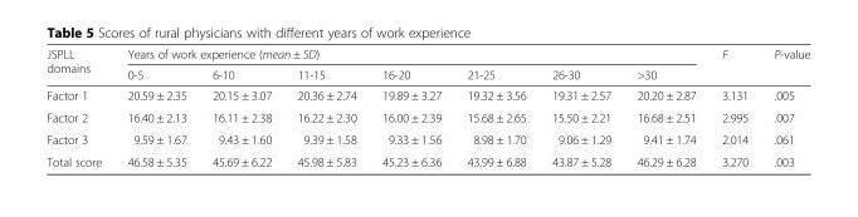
<table><thead><tr><td rowspan="2">JSPLL domains</td><td colspan="7">Years of work experience (mean ± SD)</td><td rowspan="2">F</td><td rowspan="2">P-value</td></tr><tr><td>0-5</td><td>6-10</td><td>11-15</td><td>16-20</td><td>21-25</td><td>26-30</td><td>&gt;30</td></tr></thead><tbody><tr><td>Factor 1</td><td>20.59 ± 2.35</td><td>20.15 ± 3.07</td><td>20.36 ± 2.74</td><td>19.89 ± 3.27</td><td>19.32 ± 3.56</td><td>19.31 ± 2.57</td><td>20.20 ± 2.87</td><td>3.131</td><td>.005</td></tr><tr><td>Factor 2</td><td>16.40 ± 2.13</td><td>16.11 ± 2.38</td><td>16.22 ± 2.30</td><td>16.00 ± 2.39</td><td>15.68 ± 2.65</td><td>15.50 ± 2.21</td><td>16.68 ± 2.51</td><td>2.995</td><td>.007</td></tr><tr><td>Factor 3</td><td>9.59 ± 1.67</td><td>9.43 ± 1.60</td><td>9.39 ± 1.58</td><td>9.33 ± 1.56</td><td>8.98 ± 1.70</td><td>9.06 ± 1.29</td><td>9.41 ± 1.74</td><td>2.014</td><td>.061</td></tr><tr><td>Total score</td><td>46.58 ± 5.35</td><td>45.69 ± 6.22</td><td>45.98 ± 5.83</td><td>45.23 ± 6.36</td><td>43.99 ± 6.88</td><td>43.87 ± 5.28</td><td>46.29 ± 6.28</td><td>3.270</td><td>.003</td></tr></tbody></table>